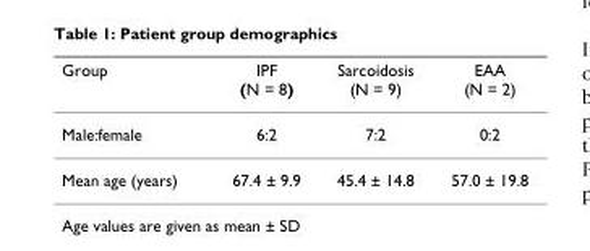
<table><thead><tr><td>Group</td><td>IPF (N = 8)</td><td>Sarcoidosis (N = 9)</td><td>EAA (N = 2)</td></tr></thead><tbody><tr><td>Male:female</td><td>6:2</td><td>7:2</td><td>0:2</td></tr><tr><td>Mean age (years)</td><td>67.4 ± 9.9</td><td>45.4 ± 14.8</td><td>57.0 ± 19.8</td></tr></tbody></table>